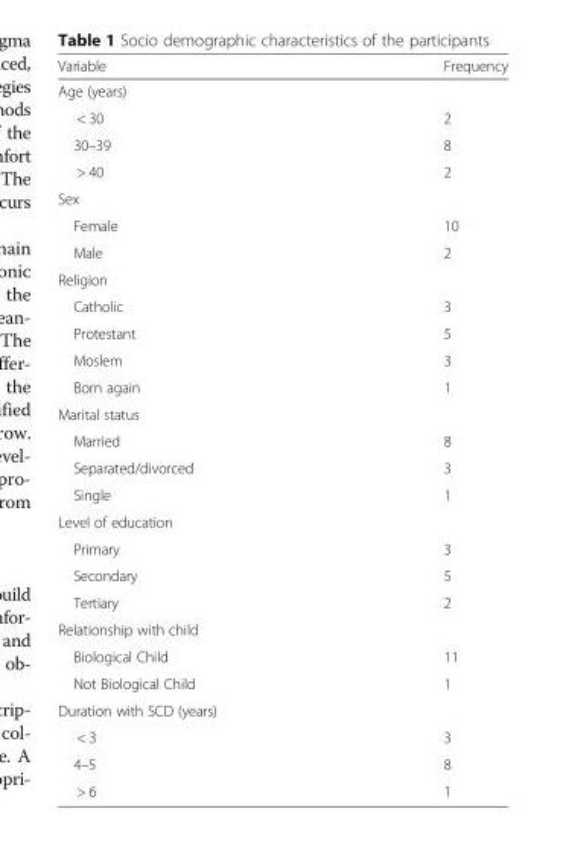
<table><thead><tr><td>Variable</td><td>Frequency</td></tr></thead><tbody><tr><td colspan="2">Age (years)</td></tr><tr><td>&lt; 30</td><td>2</td></tr><tr><td>30–39</td><td>8</td></tr><tr><td>&gt; 40</td><td>2</td></tr><tr><td colspan="2">Sex</td></tr><tr><td>Female</td><td>10</td></tr><tr><td>Male</td><td>2</td></tr><tr><td colspan="2">Religion</td></tr><tr><td>Catholic</td><td>3</td></tr><tr><td>Protestant</td><td>5</td></tr><tr><td>Moslem</td><td>3</td></tr><tr><td>Born again</td><td>1</td></tr><tr><td colspan="2">Marital status</td></tr><tr><td>Married</td><td>8</td></tr><tr><td>Separated/divorced</td><td>3</td></tr><tr><td>Single</td><td>1</td></tr><tr><td colspan="2">Level of education</td></tr><tr><td>Primary</td><td>3</td></tr><tr><td>Secondary</td><td>5</td></tr><tr><td>Tertiary</td><td>2</td></tr><tr><td colspan="2">Relationship with child</td></tr><tr><td>Biological Child</td><td>11</td></tr><tr><td>Not Biological Child</td><td>1</td></tr><tr><td colspan="2">Duration with SCD (years)</td></tr><tr><td>&lt; 3</td><td>3</td></tr><tr><td>4–5</td><td>8</td></tr><tr><td>&gt; 6</td><td>1</td></tr></tbody></table>